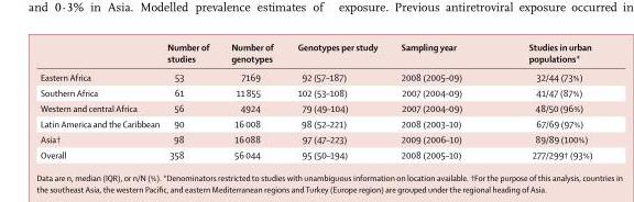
<table><thead><tr><td></td><td>Number of studies</td><td>Number of genotypes</td><td>Genotypes per study</td><td>Sampling year</td><td>Studies in urban populations*</td></tr></thead><tbody><tr><td>Eastern Africa</td><td>53</td><td>7169</td><td>92 (57–187)</td><td>2008 (2005–09)</td><td>32/44 (73%)</td></tr><tr><td>Southern Africa</td><td>61</td><td>11 855</td><td>102 (53–108)</td><td>2007 (2004–09)</td><td>41/47 (87%)</td></tr><tr><td>Western and central Africa</td><td>56</td><td>4924</td><td>79 (49–104)</td><td>2007 (2004–09)</td><td>48/50 (96%)</td></tr><tr><td>Latin America and the Caribbean</td><td>90</td><td>16 008</td><td>98 (52–221)</td><td>2008 (2003–10)</td><td>67/69 (97%)</td></tr><tr><td>Asia†</td><td>98</td><td>16 088</td><td>97 (47–223)</td><td>2009 (2006–10)</td><td>89/89 (100%)</td></tr><tr><td>Overall</td><td>358</td><td>56 044</td><td>95 (50–194)</td><td>2008 (2005–10)</td><td>277/299† (93%)</td></tr></tbody></table>